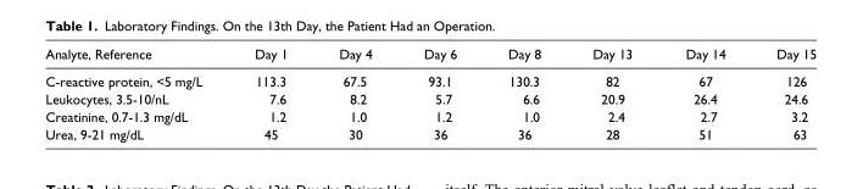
<table><thead><tr><td>Analyte, Reference</td><td>Day 1</td><td>Day 4</td><td>Day 6</td><td>Day 8</td><td>Day 13</td><td>Day 14</td><td>Day 15</td></tr></thead><tbody><tr><td>C-reactive protein, &lt;5 mg/L</td><td>113.3</td><td>67.5</td><td>93.1</td><td>130.3</td><td>82</td><td>67</td><td>126</td></tr><tr><td>Leukocytes, 3.5-10/nL</td><td>7.6</td><td>8.2</td><td>5.7</td><td>6.6</td><td>20.9</td><td>26.4</td><td>24.6</td></tr><tr><td>Creatinine, 0.7-1.3 mg/dL</td><td>1.2</td><td>1.0</td><td>1.2</td><td>1.0</td><td>2.4</td><td>2.7</td><td>3.2</td></tr><tr><td>Urea, 9-21 mg/dL</td><td>45</td><td>30</td><td>36</td><td>36</td><td>28</td><td>51</td><td>63</td></tr></tbody></table>